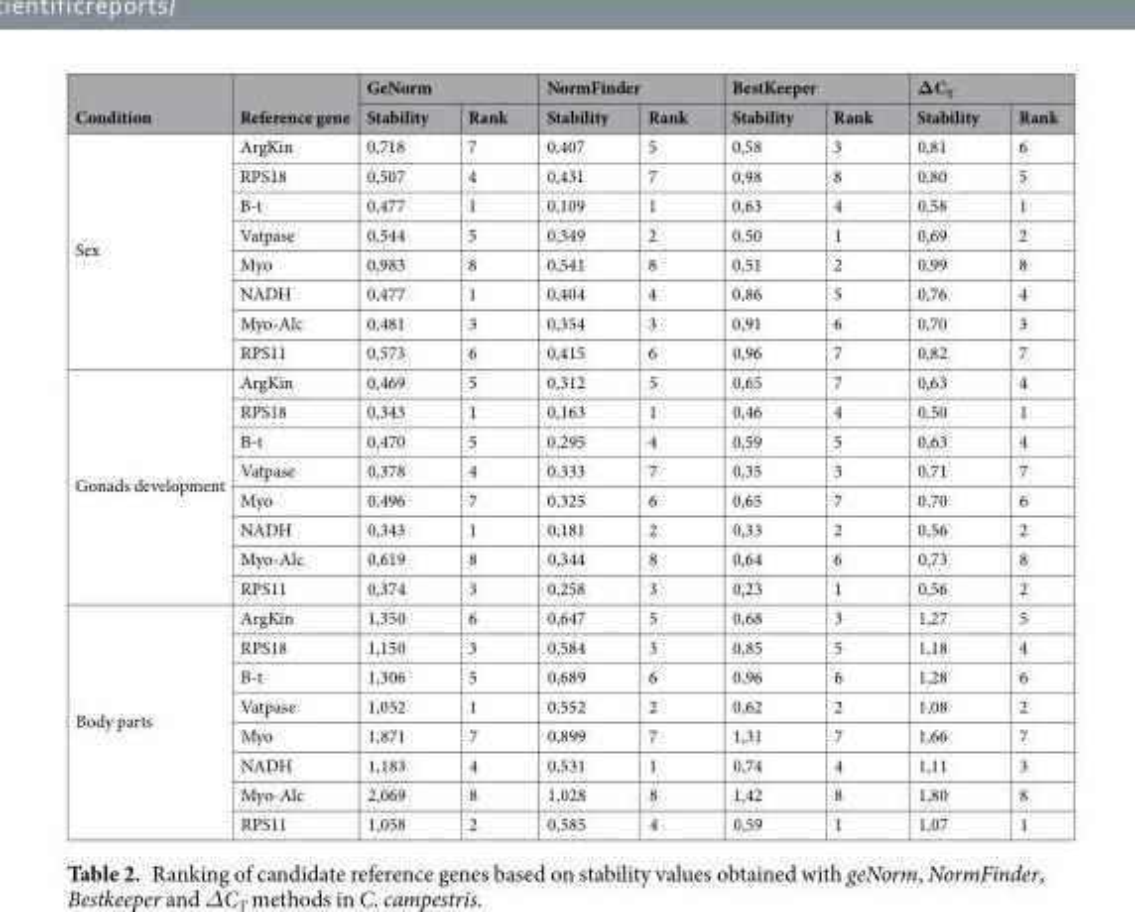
<table><thead><tr><td rowspan="2">Condition</td><td rowspan="2">Reference gene</td><td colspan="2">GeNorm</td><td colspan="2">NormFinder</td><td colspan="2">BestKeeper</td><td colspan="2">ΔC<sub>T</sub></td></tr><tr><td>Stability</td><td>Rank</td><td>Stability</td><td>Rank</td><td>Stability</td><td>Rank</td><td>Stability</td><td>Rank</td></tr></thead><tbody><tr><td rowspan="8">Sex</td><td>ArgKin</td><td>0,718</td><td>7</td><td>0,407</td><td>5</td><td>0,58</td><td>3</td><td>0,81</td><td>6</td></tr><tr><td>RPS18</td><td>0,507</td><td>4</td><td>0,431</td><td>7</td><td>0,98</td><td>8</td><td>0,80</td><td>5</td></tr><tr><td>B-t</td><td>0,477</td><td>1</td><td>0,109</td><td>1</td><td>0,63</td><td>4</td><td>0,58</td><td>1</td></tr><tr><td>Vatpase</td><td>0,544</td><td>5</td><td>0,349</td><td>2</td><td>0,50</td><td>1</td><td>0,69</td><td>2</td></tr><tr><td>Myo</td><td>0,983</td><td>8</td><td>0,541</td><td>8</td><td>0,51</td><td>2</td><td>0,99</td><td>8</td></tr><tr><td>NADH</td><td>0,477</td><td>1</td><td>0,404</td><td>4</td><td>0,86</td><td>5</td><td>0,76</td><td>4</td></tr><tr><td>Myo-Alc</td><td>0,481</td><td>3</td><td>0,354</td><td>3</td><td>0,91</td><td>6</td><td>0,70</td><td>3</td></tr><tr><td>RPS11</td><td>0,573</td><td>6</td><td>0,415</td><td>6</td><td>0,96</td><td>7</td><td>0,82</td><td>7</td></tr><tr><td rowspan="8">Gonads development</td><td>ArgKin</td><td>0,469</td><td>5</td><td>0,312</td><td>5</td><td>0,65</td><td>7</td><td>0,63</td><td>4</td></tr><tr><td>RPS18</td><td>0,343</td><td>1</td><td>0,163</td><td>1</td><td>0,46</td><td>4</td><td>0,50</td><td>1</td></tr><tr><td>B-t</td><td>0,470</td><td>5</td><td>0,295</td><td>4</td><td>0,59</td><td>5</td><td>0,63</td><td>4</td></tr><tr><td>Vatpase</td><td>0,378</td><td>4</td><td>0,333</td><td>7</td><td>0,35</td><td>3</td><td>0,71</td><td>7</td></tr><tr><td>Myo</td><td>0,496</td><td>7</td><td>0,325</td><td>6</td><td>0,65</td><td>7</td><td>0,70</td><td>6</td></tr><tr><td>NADH</td><td>0,343</td><td>1</td><td>0,181</td><td>2</td><td>0,33</td><td>2</td><td>0,56</td><td>2</td></tr><tr><td>Myo-Alc</td><td>0,619</td><td>8</td><td>0,344</td><td>8</td><td>0,64</td><td>6</td><td>0,73</td><td>8</td></tr><tr><td>RPS11</td><td>0,374</td><td>3</td><td>0,258</td><td>3</td><td>0,23</td><td>1</td><td>0,56</td><td>2</td></tr><tr><td rowspan="8">Body parts</td><td>ArgKin</td><td>1,350</td><td>6</td><td>0,647</td><td>5</td><td>0,68</td><td>3</td><td>1,27</td><td>5</td></tr><tr><td>RPS18</td><td>1,150</td><td>3</td><td>0,584</td><td>3</td><td>0,85</td><td>5</td><td>1,18</td><td>4</td></tr><tr><td>B-t</td><td>1,306</td><td>5</td><td>0,689</td><td>6</td><td>0,96</td><td>6</td><td>1,28</td><td>6</td></tr><tr><td>Vatpase</td><td>1,052</td><td>1</td><td>0,552</td><td>2</td><td>0,62</td><td>2</td><td>1,08</td><td>2</td></tr><tr><td>Myo</td><td>1,871</td><td>7</td><td>0,899</td><td>7</td><td>1,31</td><td>7</td><td>1,66</td><td>7</td></tr><tr><td>NADH</td><td>1,183</td><td>4</td><td>0,531</td><td>1</td><td>0,74</td><td>4</td><td>1,11</td><td>3</td></tr><tr><td>Myo-Alc</td><td>2,069</td><td>8</td><td>1,028</td><td>8</td><td>1,42</td><td>8</td><td>1,80</td><td>8</td></tr><tr><td>RPS11</td><td>1,058</td><td>2</td><td>0,585</td><td>4</td><td>0,59</td><td>1</td><td>1,07</td><td>1</td></tr></tbody></table>